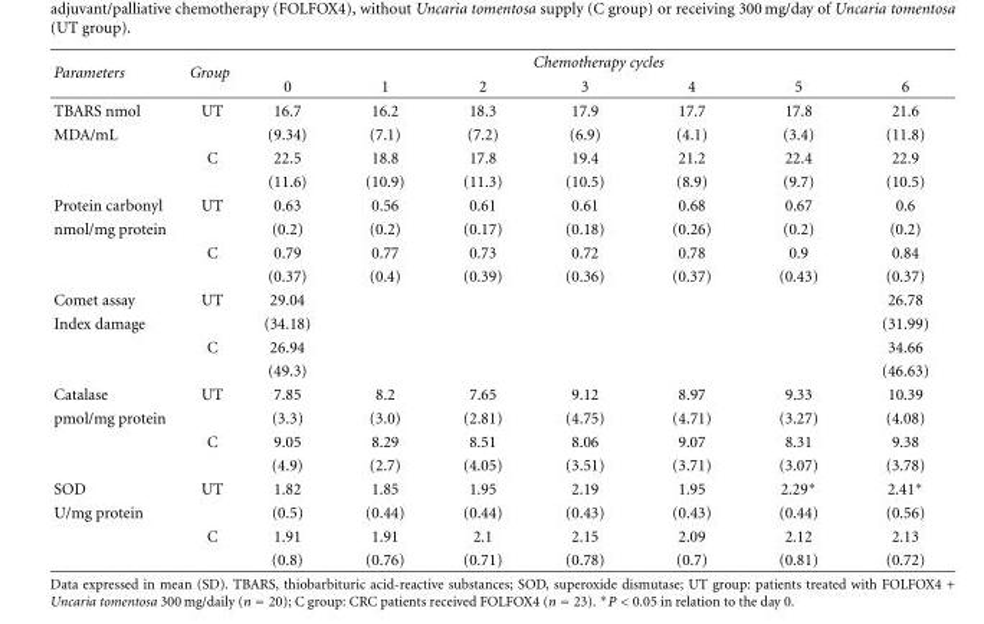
<table><thead><tr><td rowspan="2">Parameters</td><td rowspan="2">Group</td><td colspan="7">Chemotherapy cycles</td></tr><tr><td>0</td><td>1</td><td>2</td><td>3</td><td>4</td><td>5</td><td>6</td></tr></thead><tbody><tr><td>TBARS nmol</td><td>UT</td><td>16.7</td><td>16.2</td><td>18.3</td><td>17.9</td><td>17.7</td><td>17.8</td><td>21.6</td></tr><tr><td rowspan="3">MDA/mL</td><td></td><td>(9.34)</td><td>(7.1)</td><td>(7.2)</td><td>(6.9)</td><td>(4.1)</td><td>(3.4)</td><td>(11.8)</td></tr><tr><td>C</td><td>22.5</td><td>18.8</td><td>17.8</td><td>19.4</td><td>21.2</td><td>22.4</td><td>22.9</td></tr><tr><td></td><td>(11.6)</td><td>(10.9)</td><td>(11.3)</td><td>(10.5)</td><td>(8.9)</td><td>(9.7)</td><td>(10.5)</td></tr><tr><td>Protein carbonyl</td><td>UT</td><td>0.63</td><td>0.56</td><td>0.61</td><td>0.61</td><td>0.68</td><td>0.67</td><td>0.6</td></tr><tr><td rowspan="3">nmol/mg protein</td><td></td><td>(0.2)</td><td>(0.2)</td><td>(0.17)</td><td>(0.18)</td><td>(0.26)</td><td>(0.2)</td><td>(0.2)</td></tr><tr><td>C</td><td>0.79</td><td>0.77</td><td>0.73</td><td>0.72</td><td>0.78</td><td>0.9</td><td>0.84</td></tr><tr><td></td><td>(0.37)</td><td>(0.4)</td><td>(0.39)</td><td>(0.36)</td><td>(0.37)</td><td>(0.43)</td><td>(0.37)</td></tr><tr><td>Comet assay</td><td>UT</td><td>29.04</td><td></td><td></td><td></td><td></td><td></td><td>26.78</td></tr><tr><td rowspan="3">Index damage</td><td></td><td>(34.18)</td><td></td><td></td><td></td><td></td><td></td><td>(31.99)</td></tr><tr><td>C</td><td>26.94</td><td></td><td></td><td></td><td></td><td></td><td>34.66</td></tr><tr><td></td><td>(49.3)</td><td></td><td></td><td></td><td></td><td></td><td>(46.63)</td></tr><tr><td>Catalase</td><td>UT</td><td>7.85</td><td>8.2</td><td>7.65</td><td>9.12</td><td>8.97</td><td>9.33</td><td>10.39</td></tr><tr><td rowspan="3">pmol/mg protein</td><td></td><td>(3.3)</td><td>(3.0)</td><td>(2.81)</td><td>(4.75)</td><td>(4.71)</td><td>(3.27)</td><td>(4.08)</td></tr><tr><td>C</td><td>9.05</td><td>8.29</td><td>8.51</td><td>8.06</td><td>9.07</td><td>8.31</td><td>9.38</td></tr><tr><td></td><td>(4.9)</td><td>(2.7)</td><td>(4.05)</td><td>(3.51)</td><td>(3.71)</td><td>(3.07)</td><td>(3.78)</td></tr><tr><td>SOD</td><td>UT</td><td>1.82</td><td>1.85</td><td>1.95</td><td>2.19</td><td>1.95</td><td>2.29∗</td><td>2.41∗</td></tr><tr><td rowspan="3">U/mg protein</td><td></td><td>(0.5)</td><td>(0.44)</td><td>(0.44)</td><td>(0.43)</td><td>(0.43)</td><td>(0.44)</td><td>(0.56)</td></tr><tr><td>C</td><td>1.91</td><td>1.91</td><td>2.1</td><td>2.15</td><td>2.09</td><td>2.12</td><td>2.13</td></tr><tr><td></td><td>(0.8)</td><td>(0.76)</td><td>(0.71)</td><td>(0.78)</td><td>(0.7)</td><td>(0.81)</td><td>(0.72)</td></tr></tbody></table>